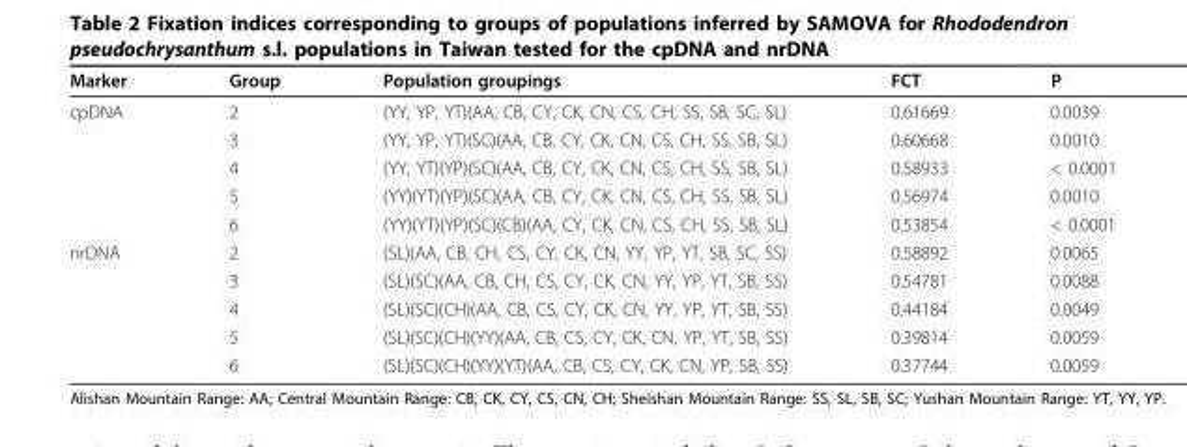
<table><thead><tr><td>Marker</td><td>Group</td><td>Population groupings</td><td>FCT</td><td>P</td></tr></thead><tbody><tr><td rowspan="5">cpDNA</td><td>2</td><td>(YY, YP, YT)(AA, CB, CY, CK, CN, CS, CH, SS, SB, SC, SL)</td><td>0.61669</td><td>0.0039</td></tr><tr><td>3</td><td>(YY, YP, YT)(SC)(AA, CB, CY, CK, CN, CS, CH, SS, SB, SL)</td><td>0.60668</td><td>0.0010</td></tr><tr><td>4</td><td>(YY, YT)(YP)(SC)(AA, CB, CY, CK, CN, CS, CH, SS, SB, SL)</td><td>0.58933</td><td>&lt; 0.0001</td></tr><tr><td>5</td><td>(YY)(YT)(YP)(SC)(AA, CB, CY, CK, CN, CS, CH, SS, SB, SL)</td><td>0.56974</td><td>0.0010</td></tr><tr><td>6</td><td>(YY)(YT)(YP)(SC)(CB)(AA, CY, CK, CN, CS, CH, SS, SB, SL)</td><td>0.53854</td><td>&lt; 0.0001</td></tr><tr><td rowspan="5">nrDNA</td><td>2</td><td>(SL)(AA, CB, CH, CS, CY, CK, CN, YY, YP, YT, SB, SC, SS)</td><td>0.58892</td><td>0.0065</td></tr><tr><td>3</td><td>(SL)(SC)(AA, CB, CH, CS, CY, CK, CN, YY, YP, YT, SB, SS)</td><td>0.54781</td><td>0.0088</td></tr><tr><td>4</td><td>(SL)(SC)(CH)(AA, CB, CS, CY, CK, CN, YY, YP, YT, SB, SS)</td><td>0.44184</td><td>0.0049</td></tr><tr><td>5</td><td>(SL)(SC)(CH)(YY)(AA, CB, CS, CY, CK, CN, YP, YT, SB, SS)</td><td>0.39814</td><td>0.0059</td></tr><tr><td>6</td><td>(SL)(SC)(CH)(YY)(YT)(AA, CB, CS, CY, CK, CN, YP, SB, SS)</td><td>0.37744</td><td>0.0059</td></tr></tbody></table>